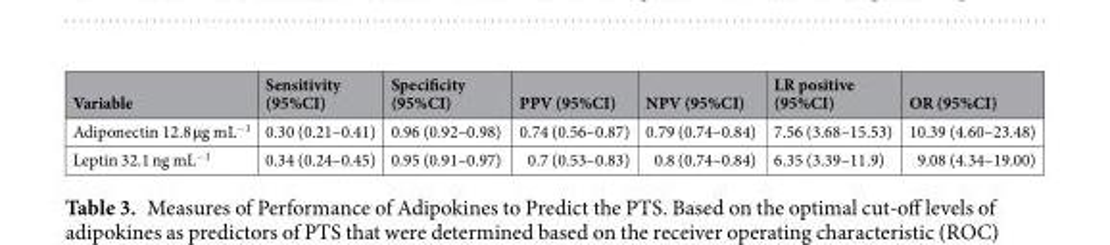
<table><thead><tr><td>Variable</td><td>Sensitivity (95%CI)</td><td>Specificity (95%CI)</td><td>PPV (95%CI)</td><td>NPV (95%CI)</td><td>LR positive (95%CI)</td><td>OR (95%CI)</td></tr></thead><tbody><tr><td>Adiponectin 12.8 µg mL<sup>−1</sup></td><td>0.30 (0.21–0.41)</td><td>0.96 (0.92–0.98)</td><td>0.74 (0.56–0.87)</td><td>0.79 (0.74–0.84)</td><td>7.56 (3.68–15.53)</td><td>10.39 (4.60–23.48)</td></tr><tr><td>Leptin 32.1 ng mL<sup>−1</sup></td><td>0.34 (0.24–0.45)</td><td>0.95 (0.91–0.97)</td><td>0.7 (0.53–0.83)</td><td>0.8 (0.74–0.84)</td><td>6.35 (3.39–11.9)</td><td>9.08 (4.34–19.00)</td></tr></tbody></table>